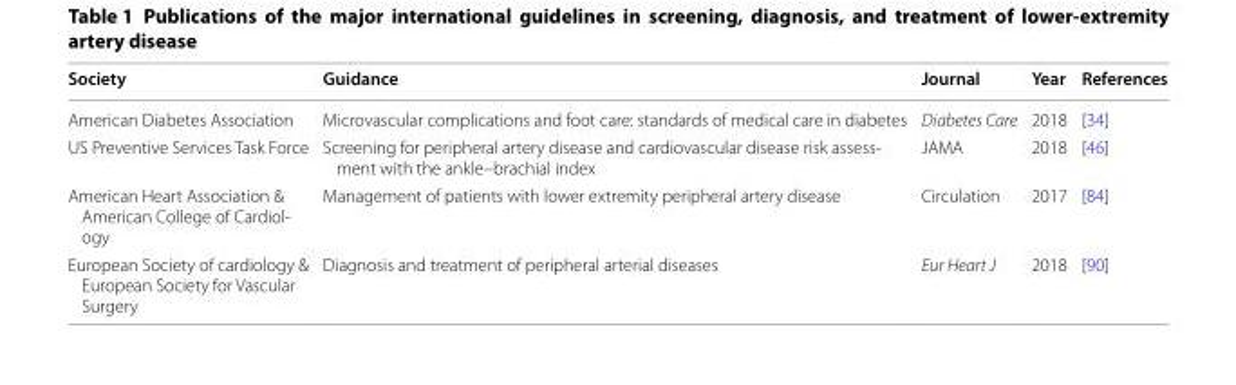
<table><thead><tr><td>Society</td><td>Guidance</td><td>Journal</td><td>Year</td><td>References</td></tr></thead><tbody><tr><td>American Diabetes Association</td><td>Microvascular complications and foot care: standards of medical care in diabetes</td><td>Diabetes Care</td><td>2018</td><td>[34]</td></tr><tr><td>US Preventive Services Task Force</td><td>Screening for peripheral artery disease and cardiovascular disease risk assess‑ ment with the ankle–brachial index</td><td>JAMA</td><td>2018</td><td>[46]</td></tr><tr><td>American Heart Association &amp; American College of Cardiol‑ ogy</td><td>Management of patients with lower extremity peripheral artery disease</td><td>Circulation</td><td>2017</td><td>[84]</td></tr><tr><td>European Society of cardiology &amp; European Society for Vascular Surgery</td><td>Diagnosis and treatment of peripheral arterial diseases</td><td>Eur Heart J</td><td>2018</td><td>[90]</td></tr></tbody></table>